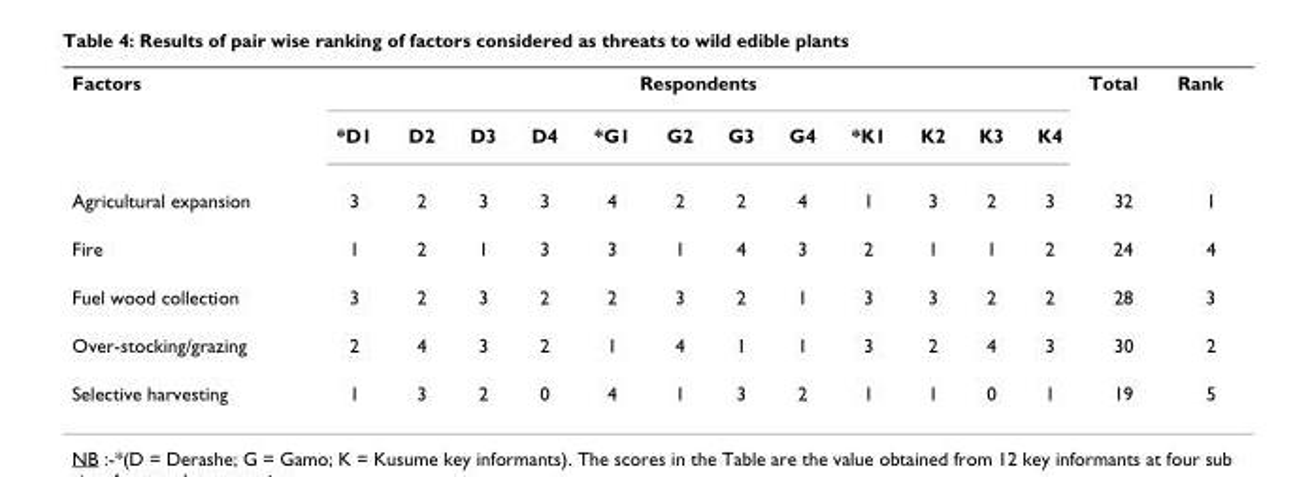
<table><tbody><tr><td rowspan="2">Factors</td><td colspan="12">Respondents</td><td>Total</td><td>Rank</td></tr><tr><td>*D1</td><td>D2</td><td>D3</td><td>D4</td><td>*G1</td><td>G2</td><td>G3</td><td>G4</td><td>*K1</td><td>K2</td><td>K3</td><td>K4</td><td></td><td></td></tr><tr><td>Agricultural expansion</td><td>3</td><td>2</td><td>3</td><td>3</td><td>4</td><td>2</td><td>2</td><td>4</td><td>1</td><td>3</td><td>2</td><td>3</td><td>32</td><td>1</td></tr><tr><td>Fire</td><td>1</td><td>2</td><td>1</td><td>3</td><td>3</td><td>1</td><td>4</td><td>3</td><td>2</td><td>1</td><td>1</td><td>2</td><td>24</td><td>4</td></tr><tr><td>Fuel wood collection</td><td>3</td><td>2</td><td>3</td><td>2</td><td>2</td><td>3</td><td>2</td><td>1</td><td>3</td><td>3</td><td>2</td><td>2</td><td>28</td><td>3</td></tr><tr><td>Over-stocking/grazing</td><td>2</td><td>4</td><td>3</td><td>2</td><td>1</td><td>4</td><td>1</td><td>1</td><td>3</td><td>2</td><td>4</td><td>3</td><td>30</td><td>2</td></tr><tr><td>Selective harvesting</td><td>1</td><td>3</td><td>2</td><td>0</td><td>4</td><td>1</td><td>3</td><td>2</td><td>1</td><td>1</td><td>0</td><td>1</td><td>19</td><td>5</td></tr></tbody></table>